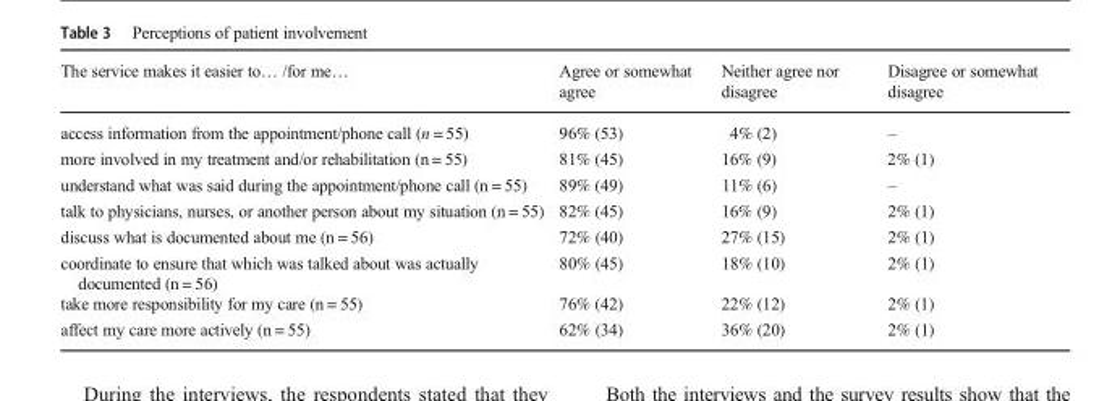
<table><thead><tr><td>The service makes it easier to… /for me…</td><td>Agree or somewhat agree</td><td>Neither agree nor disagree</td><td>Disagree or somewhat disagree</td></tr></thead><tbody><tr><td>access information from the appointment/phone call (n = 55)</td><td>96% (53)</td><td>4% (2)</td><td>–</td></tr><tr><td>more involved in my treatment and/or rehabilitation (n = 55)</td><td>81% (45)</td><td>16% (9)</td><td>2% (1)</td></tr><tr><td>understand what was said during the appointment/phone call (n = 55)</td><td>89% (49)</td><td>11% (6)</td><td>–</td></tr><tr><td>talk to physicians, nurses, or another person about my situation (n = 55)</td><td>82% (45)</td><td>16% (9)</td><td>2% (1)</td></tr><tr><td>discuss what is documented about me (n = 56)</td><td>72% (40)</td><td>27% (15)</td><td>2% (1)</td></tr><tr><td>coordinate to ensure that which was talked about was actually documented (n = 56)</td><td>80% (45)</td><td>18% (10)</td><td>2% (1)</td></tr><tr><td>take more responsibility for my care (n = 55)</td><td>76% (42)</td><td>22% (12)</td><td>2% (1)</td></tr><tr><td>affect my care more actively (n = 55)</td><td>62% (34)</td><td>36% (20)</td><td>2% (1)</td></tr></tbody></table>